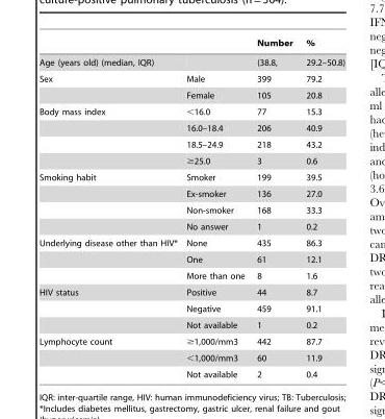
<table><thead><tr><td></td><td></td><td>Number</td><td>%</td></tr></thead><tbody><tr><td>Age (years old) (median, IQR)</td><td></td><td>(38.8,</td><td>29.2–50.8)</td></tr><tr><td rowspan="2">Sex</td><td>Male</td><td>399</td><td>79.2</td></tr><tr><td>Female</td><td>105</td><td>20.8</td></tr><tr><td rowspan="4">Body mass index</td><td>&lt;16.0</td><td>77</td><td>15.3</td></tr><tr><td>16.0–18.4</td><td>206</td><td>40.9</td></tr><tr><td>18.5–24.9</td><td>218</td><td>43.2</td></tr><tr><td>≥25.0</td><td>3</td><td>0.6</td></tr><tr><td rowspan="4">Smoking habit</td><td>Smoker</td><td>199</td><td>39.5</td></tr><tr><td>Ex-smoker</td><td>136</td><td>27.0</td></tr><tr><td>Non-smoker</td><td>168</td><td>33.3</td></tr><tr><td>No answer</td><td>1</td><td>0.2</td></tr><tr><td rowspan="3">Underlying disease other than HIV*</td><td>None</td><td>435</td><td>86.3</td></tr><tr><td>One</td><td>61</td><td>12.1</td></tr><tr><td>More than one</td><td>8</td><td>1.6</td></tr><tr><td rowspan="3">HIV status</td><td>Positive</td><td>44</td><td>8.7</td></tr><tr><td>Negative</td><td>459</td><td>91.1</td></tr><tr><td>Not available</td><td>1</td><td>0.2</td></tr><tr><td rowspan="3">Lymphocyte count</td><td>≥1,000/mm3</td><td>442</td><td>87.7</td></tr><tr><td>&lt;1,000/mm3</td><td>60</td><td>11.9</td></tr><tr><td>Not available</td><td>2</td><td>0.4</td></tr></tbody></table>